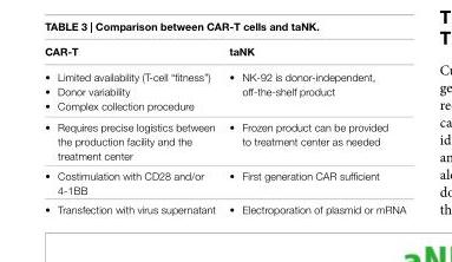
<table><thead><tr><td>CAR-T</td><td>taNK</td></tr></thead><tbody><tr><td>• Limited availability (T-cell “fitness”) • Donor variability • Complex collection procedure</td><td>• NK-92 is donor-independent, off-the-shelf product</td></tr><tr><td>• Requires precise logistics between the production facility and the treatment center</td><td>• Frozen product can be provided to treatment center as needed</td></tr><tr><td>• Costimulation with CD28 and/or 4-1BB</td><td>• First generation CAR sufficient</td></tr><tr><td>• Transfection with virus supernatant</td><td>• Electroporation of plasmid or mRNA</td></tr></tbody></table>